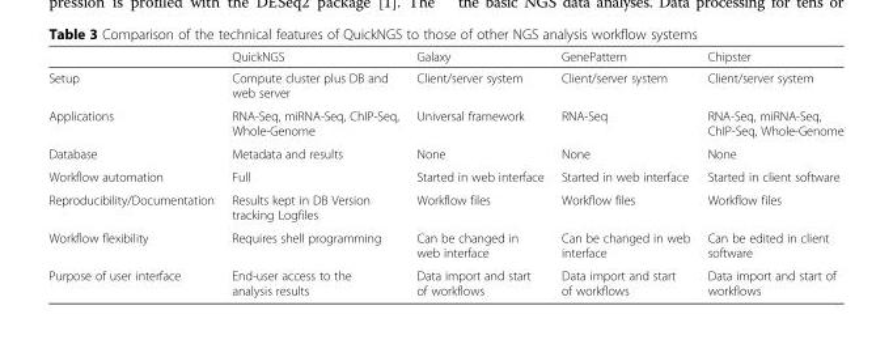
<table><thead><tr><td></td><td>QuickNGS</td><td>Galaxy</td><td>GenePattern</td><td>Chipster</td></tr></thead><tbody><tr><td>Setup</td><td>Compute cluster plus DB and web server</td><td>Client/server system</td><td>Client/server system</td><td>Client/server system</td></tr><tr><td>Applications</td><td>RNA-Seq, miRNA-Seq, ChIP-Seq, Whole-Genome</td><td>Universal framework</td><td>RNA-Seq</td><td>RNA-Seq, miRNA-Seq, ChIP-Seq, Whole-Genome</td></tr><tr><td>Database</td><td>Metadata and results</td><td>None</td><td>None</td><td>None</td></tr><tr><td>Workflow automation</td><td>Full</td><td>Started in web interface</td><td>Started in web interface</td><td>Started in client software</td></tr><tr><td>Reproducibility/Documentation</td><td>Results kept in DB Version tracking Logfiles</td><td>Workflow files</td><td>Workflow files</td><td>Workflow files</td></tr><tr><td>Workflow flexibility</td><td>Requires shell programming</td><td>Can be changed in web interface</td><td>Can be changed in web interface</td><td>Can be edited in client software</td></tr><tr><td>Purpose of user interface</td><td>End-user access to the analysis results</td><td>Data import and start of workflows</td><td>Data import and start of workflows</td><td>Data import and start of workflows</td></tr></tbody></table>